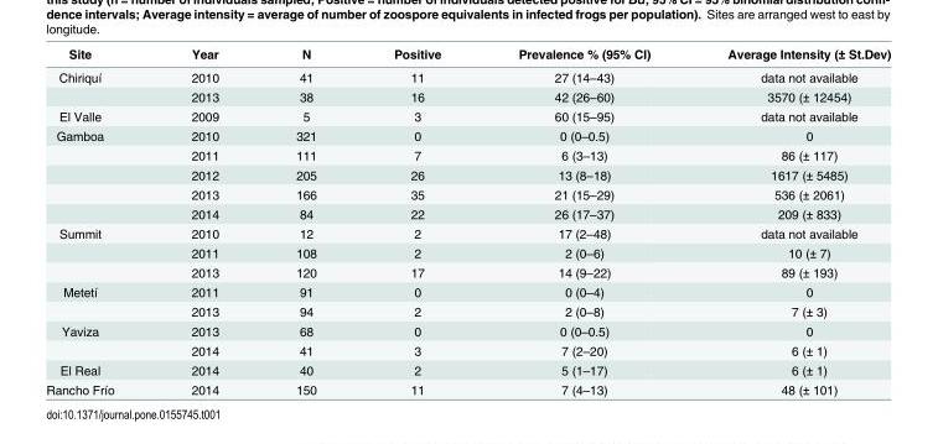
<table><thead><tr><td>Site</td><td>Year</td><td>N</td><td>Positive</td><td>Prevalence % (95% CI)</td><td>Average Intensity (± St.Dev)</td></tr></thead><tbody><tr><td rowspan="2">Chiriquí</td><td>2010</td><td>41</td><td>11</td><td>27 (14–43)</td><td>data not available</td></tr><tr><td>2013</td><td>38</td><td>16</td><td>42 (26–60)</td><td>3570 (± 12454)</td></tr><tr><td>El Valle</td><td>2009</td><td>5</td><td>3</td><td>60 (15–95)</td><td>data not available</td></tr><tr><td rowspan="5">Gamboa</td><td>2010</td><td>321</td><td>0</td><td>0 (0–0.5)</td><td>0</td></tr><tr><td>2011</td><td>111</td><td>7</td><td>6 (3–13)</td><td>86 (± 117)</td></tr><tr><td>2012</td><td>205</td><td>26</td><td>13 (8–18)</td><td>1617 (± 5485)</td></tr><tr><td>2013</td><td>166</td><td>35</td><td>21 (15–29)</td><td>536 (± 2061)</td></tr><tr><td>2014</td><td>84</td><td>22</td><td>26 (17–37)</td><td>209 (± 833)</td></tr><tr><td rowspan="3">Summit</td><td>2010</td><td>12</td><td>2</td><td>17 (2–48)</td><td>data not available</td></tr><tr><td>2011</td><td>108</td><td>2</td><td>2 (0–6)</td><td>10 (± 7)</td></tr><tr><td>2013</td><td>120</td><td>17</td><td>14 (9–22)</td><td>89 (± 193)</td></tr><tr><td rowspan="2">Metetí</td><td>2011</td><td>91</td><td>0</td><td>0 (0–4)</td><td>0</td></tr><tr><td>2013</td><td>94</td><td>2</td><td>2 (0–8)</td><td>7 (± 3)</td></tr><tr><td rowspan="2">Yaviza</td><td>2013</td><td>68</td><td>0</td><td>0 (0–0.5)</td><td>0</td></tr><tr><td>2014</td><td>41</td><td>3</td><td>7 (2–20)</td><td>6 (± 1)</td></tr><tr><td>El Real</td><td>2014</td><td>40</td><td>2</td><td>5 (1–17)</td><td>6 (± 1)</td></tr><tr><td>Rancho Frío</td><td>2014</td><td>150</td><td>11</td><td>7 (4–13)</td><td>48 (± 101)</td></tr></tbody></table>